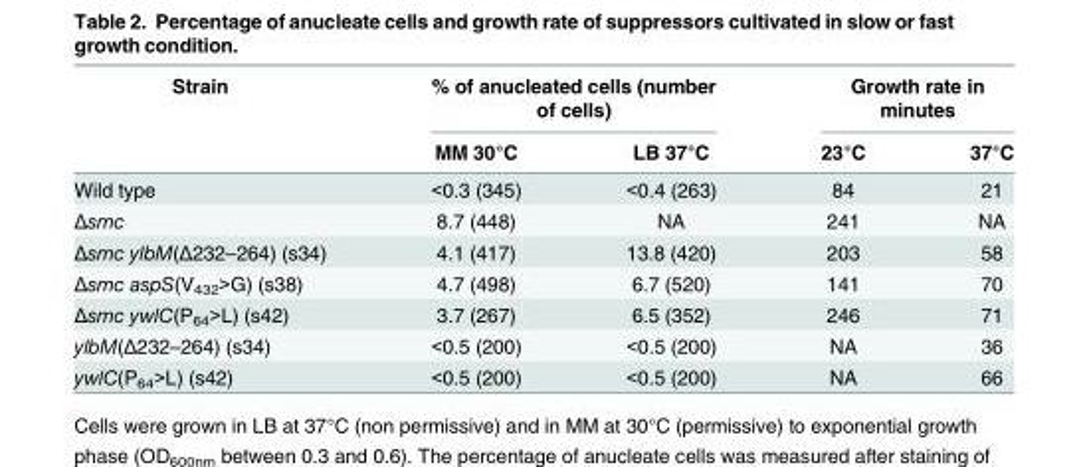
<table><thead><tr><td rowspan="2">Strain</td><td colspan="2">% of anucleated cells (number of cells)</td><td colspan="2">Growth rate in minutes</td></tr><tr><td>MM 30°C</td><td>LB 37°C</td><td>23°C</td><td>37°C</td></tr></thead><tbody><tr><td>Wild type</td><td>&lt;0.3 (345)</td><td>&lt;0.4 (263)</td><td>84</td><td>21</td></tr><tr><td>Δsmc</td><td>8.7 (448)</td><td>NA</td><td>241</td><td>NA</td></tr><tr><td>Δsmc ylbM(Δ232–264) (s34)</td><td>4.1 (417)</td><td>13.8 (420)</td><td>203</td><td>58</td></tr><tr><td>Δsmc aspS(V<sub>432</sub>&gt;G) (s38)</td><td>4.7 (498)</td><td>6.7 (520)</td><td>141</td><td>70</td></tr><tr><td>Δsmc ywlC(P<sub>64</sub>&gt;L) (s42)</td><td>3.7 (267)</td><td>6.5 (352)</td><td>246</td><td>71</td></tr><tr><td>ylbM(Δ232–264) (s34)</td><td>&lt;0.5 (200)</td><td>&lt;0.5 (200)</td><td>NA</td><td>36</td></tr><tr><td>ywlC(P<sub>64</sub>&gt;L) (s42)</td><td>&lt;0.5 (200)</td><td>&lt;0.5 (200)</td><td>NA</td><td>66</td></tr></tbody></table>